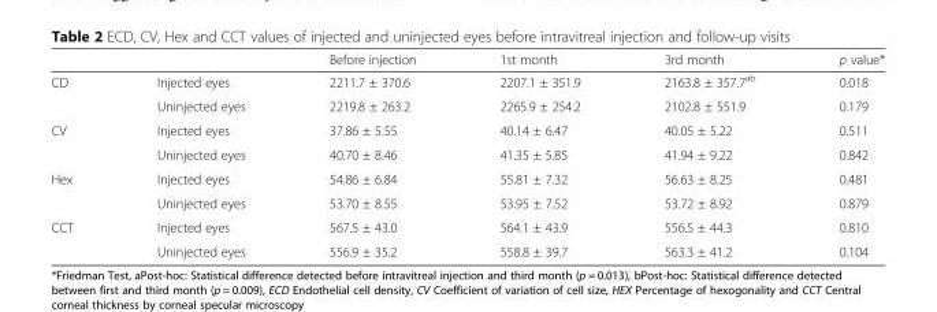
<table><thead><tr><td></td><td></td><td>Before injection</td><td>1st month</td><td>3rd month</td><td>p value*</td></tr></thead><tbody><tr><td rowspan="2">CD</td><td>Injected eyes</td><td>2211.7 ± 370.6</td><td>2207.1 ± 351.9</td><td>2163.8 ± 357.7<sup>ab</sup></td><td>0.018</td></tr><tr><td>Uninjected eyes</td><td>2219.8 ± 263.2</td><td>2265.9 ± 254.2</td><td>2102.8 ± 551.9</td><td>0.179</td></tr><tr><td rowspan="2">CV</td><td>Injected eyes</td><td>37.86 ± 5.55</td><td>40.14 ± 6.47</td><td>40.05 ± 5.22</td><td>0.511</td></tr><tr><td>Uninjected eyes</td><td>40.70 ± 8.46</td><td>41.35 ± 5.85</td><td>41.94 ± 9.22</td><td>0.842</td></tr><tr><td rowspan="2">Hex</td><td>Injected eyes</td><td>54.86 ± 6.84</td><td>55.81 ± 7.32</td><td>56.63 ± 8.25</td><td>0.481</td></tr><tr><td>Uninjected eyes</td><td>53.70 ± 8.55</td><td>53.95 ± 7.52</td><td>53.72 ± 8.92</td><td>0.879</td></tr><tr><td rowspan="2">CCT</td><td>Injected eyes</td><td>567.5 ± 43.0</td><td>564.1 ± 43.9</td><td>556.5 ± 44.3</td><td>0.810</td></tr><tr><td>Uninjected eyes</td><td>556.9 ± 35.2</td><td>558.8 ± 39.7</td><td>563.3 ± 41.2</td><td>0.104</td></tr></tbody></table>